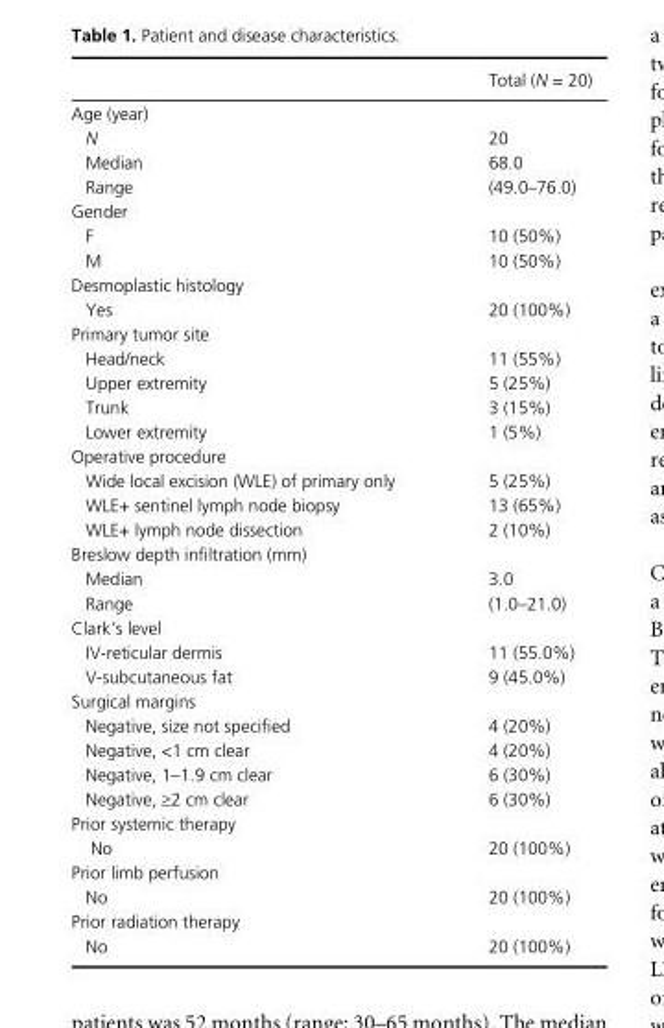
<table><thead><tr><td></td><td>Total (N = 20)</td></tr></thead><tbody><tr><td colspan="2">Age (year)</td></tr><tr><td>N</td><td>20</td></tr><tr><td>Median</td><td>68.0</td></tr><tr><td>Range</td><td>(49.0–76.0)</td></tr><tr><td colspan="2">Gender</td></tr><tr><td>F</td><td>10 (50%)</td></tr><tr><td>M</td><td>10 (50%)</td></tr><tr><td colspan="2">Desmoplastic histology</td></tr><tr><td>Yes</td><td>20 (100%)</td></tr><tr><td colspan="2">Primary tumor site</td></tr><tr><td>Head/neck</td><td>11 (55%)</td></tr><tr><td>Upper extremity</td><td>5 (25%)</td></tr><tr><td>Trunk</td><td>3 (15%)</td></tr><tr><td>Lower extremity</td><td>1 (5%)</td></tr><tr><td colspan="2">Operative procedure</td></tr><tr><td>Wide local excision (WLE) of primary only</td><td>5 (25%)</td></tr><tr><td>WLE+ sentinel lymph node biopsy</td><td>13 (65%)</td></tr><tr><td>WLE+ lymph node dissection</td><td>2 (10%)</td></tr><tr><td colspan="2">Breslow depth infiltration (mm)</td></tr><tr><td>Median</td><td>3.0</td></tr><tr><td>Range</td><td>(1.0–21.0)</td></tr><tr><td colspan="2">Clark’s level</td></tr><tr><td>IV- reticular dermis</td><td>11 (55.0%)</td></tr><tr><td>V- subcutaneous fat</td><td>9 (45.0%)</td></tr><tr><td colspan="2">Surgical margins</td></tr><tr><td>Negative, size not specified</td><td>4 (20%)</td></tr><tr><td>Negative, &lt;1 cm clear</td><td>4 (20%)</td></tr><tr><td>Negative, 1–1.9 cm clear</td><td>6 (30%)</td></tr><tr><td>Negative, ≥2 cm clear</td><td>6 (30%)</td></tr><tr><td colspan="2">Prior systemic therapy</td></tr><tr><td>No</td><td>20 (100%)</td></tr><tr><td colspan="2">Prior limb perfusion</td></tr><tr><td>No</td><td>20 (100%)</td></tr><tr><td colspan="2">Prior radiation therapy</td></tr><tr><td>No</td><td>20 (100%)</td></tr></tbody></table>